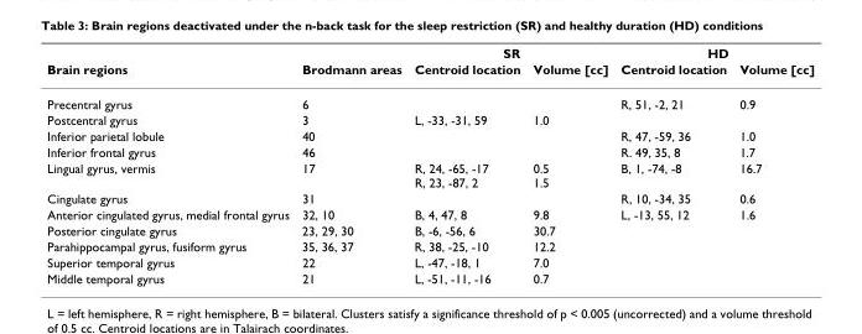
<table><thead><tr><td rowspan="2">Brain regions</td><td rowspan="2">Brodmann areas</td><td colspan="2">SR</td><td colspan="2">HD</td></tr><tr><td>Centroid location</td><td>Volume [cc]</td><td>Centroid location</td><td>Volume [cc]</td></tr></thead><tbody><tr><td>Precentral gyrus</td><td>6</td><td></td><td></td><td>R, 51, -2, 21</td><td>0.9</td></tr><tr><td>Postcentral gyrus</td><td>3</td><td>L, -33, -31, 59</td><td>1.0</td><td></td><td></td></tr><tr><td>Inferior parietal lobule</td><td>40</td><td></td><td></td><td>R, 47, -59, 36</td><td>1.0</td></tr><tr><td>Inferior frontal gyrus</td><td>46</td><td></td><td></td><td>R. 49, 35, 8</td><td>1.7</td></tr><tr><td>Lingual gyrus, vermis</td><td>17</td><td>R, 24, -65, -17 R, 23, -87, 2</td><td>0.5 1.5</td><td>B, 1, -74, -8</td><td>16.7</td></tr><tr><td>Cingulate gyrus</td><td>31</td><td></td><td></td><td>R, 10, -34, 35</td><td>0.6</td></tr><tr><td>Anterior cingulated gyrus, medial frontal gyrus</td><td>32, 10</td><td>B, 4, 47, 8</td><td>9.8</td><td>L, -13, 55, 12</td><td>1.6</td></tr><tr><td>Posterior cingulate gyrus</td><td>23, 29, 30</td><td>B, -6, -56, 6</td><td>30.7</td><td></td><td></td></tr><tr><td>Parahippocampal gyrus, fusiform gyrus</td><td>35, 36, 37</td><td>R, 38, -25, -10</td><td>12.2</td><td></td><td></td></tr><tr><td>Superior temporal gyrus</td><td>22</td><td>L, -47, -18, 1</td><td>7.0</td><td></td><td></td></tr><tr><td>Middle temporal gyrus</td><td>21</td><td>L, -51, -11, -16</td><td>0.7</td><td></td><td></td></tr></tbody></table>